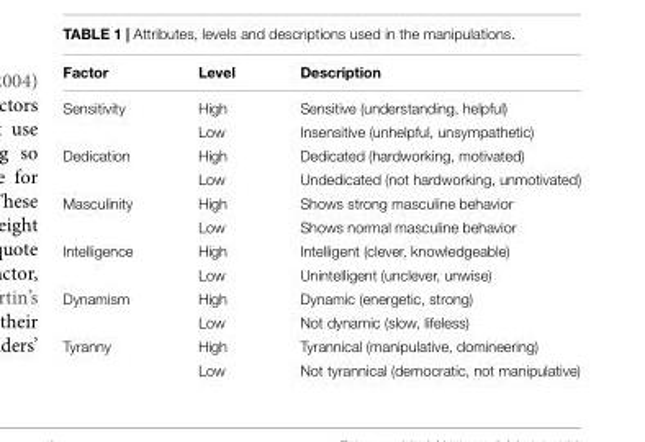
<table><thead><tr><td>Factor</td><td>Level</td><td>Description</td></tr></thead><tbody><tr><td rowspan="2">Sensitivity</td><td>High</td><td>Sensitive (understanding, helpful)</td></tr><tr><td>Low</td><td>Insensitive (unhelpful, unsympathetic)</td></tr><tr><td rowspan="2">Dedication</td><td>High</td><td>Dedicated (hardworking, motivated)</td></tr><tr><td>Low</td><td>Undedicated (not hardworking, unmotivated)</td></tr><tr><td rowspan="2">Masculinity</td><td>High</td><td>Shows strong masculine behavior</td></tr><tr><td>Low</td><td>Shows normal masculine behavior</td></tr><tr><td rowspan="2">Intelligence</td><td>High</td><td>Intelligent (clever, knowledgeable)</td></tr><tr><td>Low</td><td>Unintelligent (unclever, unwise)</td></tr><tr><td rowspan="2">Dynamism</td><td>High</td><td>Dynamic (energetic, strong)</td></tr><tr><td>Low</td><td>Not dynamic (slow, lifeless)</td></tr><tr><td rowspan="2">Tyranny</td><td>High</td><td>Tyrannical (manipulative, domineering)</td></tr><tr><td>Low</td><td>Not tyrannical (democratic, not manipulative)</td></tr></tbody></table>